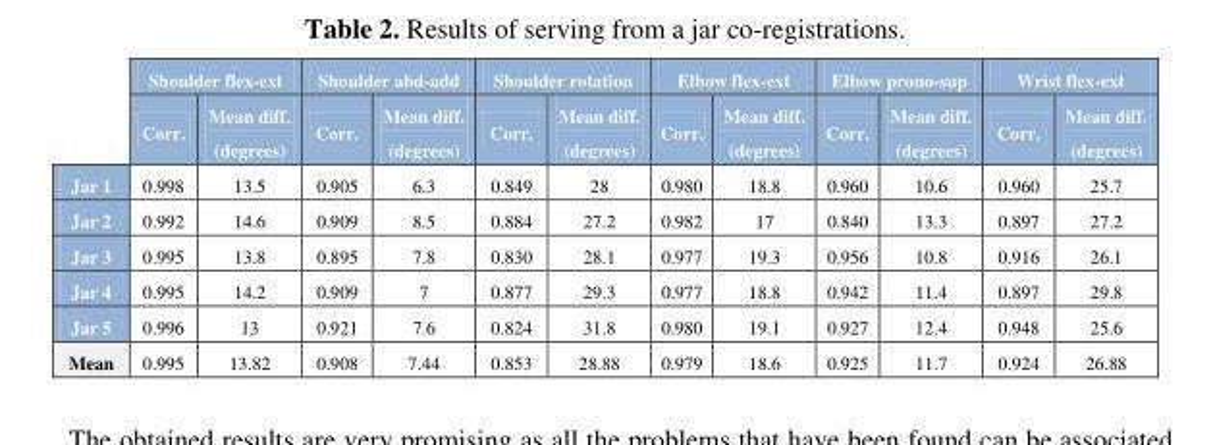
<table><thead><tr><td rowspan="2"></td><td colspan="2">Shoulder flex-ext</td><td colspan="2">Shoulder abd-add</td><td colspan="2">Shoulder rotation</td><td colspan="2">Elbow flex-ext</td><td colspan="2">Elbow prono-sup</td><td colspan="2">Wrist flex-ext</td></tr><tr><td>Corr.</td><td>Mean diff. (degrees)</td><td>Corr.</td><td>Mean diff. (degrees)</td><td>Corr.</td><td>Mean diff. (degrees)</td><td>Corr.</td><td>Mean diff. (degrees)</td><td>Corr.</td><td>Mean diff. (degrees)</td><td>Corr.</td><td>Mean diff. (degrees)</td></tr></thead><tbody><tr><td>Jar 1</td><td>0.998</td><td>13.5</td><td>0.905</td><td>6.3</td><td>0.849</td><td>28</td><td>0.980</td><td>18.8</td><td>0.960</td><td>10.6</td><td>0.960</td><td>25.7</td></tr><tr><td>Jar 2</td><td>0.992</td><td>14.6</td><td>0.909</td><td>8.5</td><td>0.884</td><td>27.2</td><td>0.982</td><td>17</td><td>0.840</td><td>13.3</td><td>0.897</td><td>27.2</td></tr><tr><td>Jar 3</td><td>0.995</td><td>13.8</td><td>0.895</td><td>7.8</td><td>0.830</td><td>28.1</td><td>0.977</td><td>19.3</td><td>0.956</td><td>10.8</td><td>0.916</td><td>26.1</td></tr><tr><td>Jar 4</td><td>0.995</td><td>14.2</td><td>0.909</td><td>7</td><td>0.877</td><td>29.3</td><td>0.977</td><td>18.8</td><td>0.942</td><td>11.4</td><td>0.897</td><td>29.8</td></tr><tr><td>Jar 5</td><td>0.996</td><td>13</td><td>0.921</td><td>7.6</td><td>0.824</td><td>31.8</td><td>0.980</td><td>19.1</td><td>0.927</td><td>12.4</td><td>0.948</td><td>25.6</td></tr><tr><td>Mean</td><td>0.995</td><td>13.82</td><td>0.908</td><td>7.44</td><td>0.853</td><td>28.88</td><td>0.979</td><td>18.6</td><td>0.925</td><td>11.7</td><td>0.924</td><td>26.88</td></tr></tbody></table>